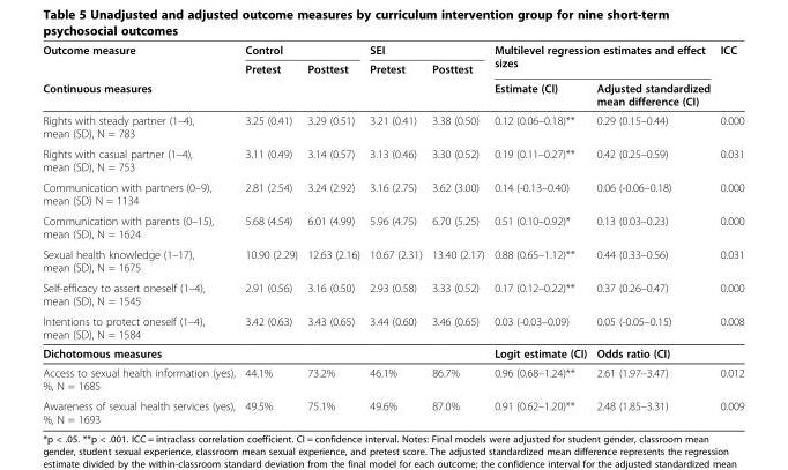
<table><thead><tr><td rowspan="3">Outcome measure Continuous measures</td><td colspan="2">Control</td><td colspan="2">SEI</td><td rowspan="2" colspan="2">Multilevel regression estimates and effect sizes</td><td rowspan="3">ICC</td></tr><tr><td rowspan="2">Pretest</td><td rowspan="2">Posttest</td><td rowspan="2">Pretest</td><td rowspan="2">Posttest</td></tr><tr><td>Estimate (CI)</td><td>Adjusted standardized mean difference (CI)</td></tr></thead><tbody><tr><td>Rights with steady partner (1–4), mean (SD), N = 783</td><td>3.25 (0.41)</td><td>3.29 (0.51)</td><td>3.21 (0.41)</td><td>3.38 (0.50)</td><td>0.12 (0.06–0.18)**</td><td>0.29 (0.15–0.44)</td><td>0.000</td></tr><tr><td>Rights with casual partner (1–4), mean (SD), N = 753</td><td>3.11 (0.49)</td><td>3.14 (0.57)</td><td>3.13 (0.46)</td><td>3.30 (0.52)</td><td>0.19 (0.11–0.27)**</td><td>0.42 (0.25–0.59)</td><td>0.031</td></tr><tr><td>Communication with partners (0–9), mean (SD) N = 1134</td><td>2.81 (2.54)</td><td>3.24 (2.92)</td><td>3.16 (2.75)</td><td>3.62 (3.00)</td><td>0.14 (-0.13–0.40)</td><td>0.06 (-0.06–0.18)</td><td>0.000</td></tr><tr><td>Communication with parents (0–15), mean (SD), N = 1624</td><td>5.68 (4.54)</td><td>6.01 (4.99)</td><td>5.96 (4.75)</td><td>6.70 (5.25)</td><td>0.51 (0.10–0.92)*</td><td>0.13 (0.03–0.23)</td><td>0.000</td></tr><tr><td>Sexual health knowledge (1–17), mean (SD), N = 1675</td><td>10.90 (2.29)</td><td>12.63 (2.16)</td><td>10.67 (2.31)</td><td>13.40 (2.17)</td><td>0.88 (0.65–1.12)**</td><td>0.44 (0.33–0.56)</td><td>0.031</td></tr><tr><td>Self-efficacy to assert oneself (1–4), mean (SD), N = 1545</td><td>2.91 (0.56)</td><td>3.16 (0.50)</td><td>2.93 (0.58)</td><td>3.33 (0.52)</td><td>0.17 (0.12–0.22)**</td><td>0.37 (0.26–0.47)</td><td>0.000</td></tr><tr><td>Intentions to protect oneself (1–4), mean (SD), N = 1584</td><td>3.42 (0.63)</td><td>3.43 (0.65)</td><td>3.44 (0.60)</td><td>3.46 (0.65)</td><td>0.03 (-0.03–0.09)</td><td>0.05 (-0.05–0.15)</td><td>0.008</td></tr><tr><td>Dichotomous measures</td><td></td><td></td><td></td><td></td><td>Logit estimate (CI)</td><td>Odds ratio (CI)</td><td></td></tr><tr><td>Access to sexual health information (yes), %, N = 1685</td><td>44.1%</td><td>73.2%</td><td>46.1%</td><td>86.7%</td><td>0.96 (0.68–1.24)**</td><td>2.61 (1.97–3.47)</td><td>0.012</td></tr><tr><td>Awareness of sexual health services (yes), %, N = 1693</td><td>49.5%</td><td>75.1%</td><td>49.6%</td><td>87.0%</td><td>0.91 (0.62–1.20)**</td><td>2.48 (1.85–3.31)</td><td>0.009</td></tr></tbody></table>